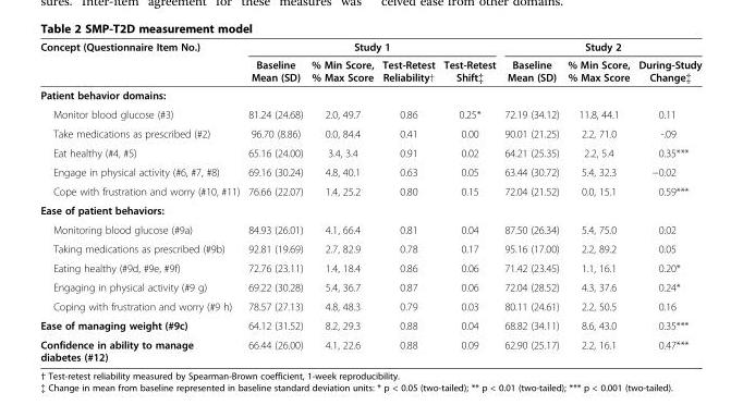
<table><thead><tr><td rowspan="2">Concept (Questionnaire Item No.)</td><td colspan="4">Study 1</td><td colspan="3">Study 2</td></tr><tr><td>Baseline Mean (SD)</td><td>% Min Score, % Max Score</td><td>Test-Retest Reliability†</td><td>Test-Retest Shift‡</td><td>Baseline Mean (SD)</td><td>% Min Score, % Max Score</td><td>During-Study Change‡</td></tr></thead><tbody><tr><td colspan="8">Patient behavior domains:</td></tr><tr><td>Monitor blood glucose (#3)</td><td>81.24 (24.68)</td><td>2.0, 49.7</td><td>0.86</td><td>0.25*</td><td>72.19 (34.12)</td><td>11.8, 44.1</td><td>0.11</td></tr><tr><td>Take medications as prescribed (#2)</td><td>96.70 (8.86)</td><td>0.0, 84.4</td><td>0.41</td><td>0.00</td><td>90.01 (21.25)</td><td>2.2, 71.0</td><td>-.09</td></tr><tr><td>Eat healthy (#4, #5)</td><td>65.16 (24.00)</td><td>3.4, 3.4</td><td>0.91</td><td>0.02</td><td>64.21 (25.35)</td><td>2.2, 5.4</td><td>0.35***</td></tr><tr><td>Engage in physical activity (#6, #7, #8)</td><td>69.16 (30.24)</td><td>4.8, 40.1</td><td>0.63</td><td>0.05</td><td>63.44 (30.72)</td><td>5.4, 32.3</td><td>−0.02</td></tr><tr><td>Cope with frustration and worry (#10, #11)</td><td>76.66 (22.07)</td><td>1.4, 25.2</td><td>0.80</td><td>0.15</td><td>72.04 (21.52)</td><td>0.0, 15.1</td><td>0.59***</td></tr><tr><td colspan="8">Ease of patient behaviors:</td></tr><tr><td>Monitoring blood glucose (#9a)</td><td>84.93 (26.01)</td><td>4.1, 66.4</td><td>0.81</td><td>0.04</td><td>87.50 (26.34)</td><td>5.4, 75.0</td><td>0.02</td></tr><tr><td>Taking medications as prescribed (#9b)</td><td>92.81 (19.69)</td><td>2.7, 82.9</td><td>0.78</td><td>0.17</td><td>95.16 (17.00)</td><td>2.2, 89.2</td><td>0.05</td></tr><tr><td>Eating healthy (#9d, #9e, #9f)</td><td>72.76 (23.11)</td><td>1.4, 18.4</td><td>0.86</td><td>0.06</td><td>71.42 (23.45)</td><td>1.1, 16.1</td><td>0.20*</td></tr><tr><td>Engaging in physical activity (#9 g)</td><td>69.22 (30.28)</td><td>5.4, 36.7</td><td>0.87</td><td>0.06</td><td>72.04 (28.52)</td><td>4.3, 37.6</td><td>0.24*</td></tr><tr><td>Coping with frustration and worry (#9 h)</td><td>78.57 (27.13)</td><td>4.8, 48.3</td><td>0.79</td><td>0.03</td><td>80.11 (24.61)</td><td>2.2, 50.5</td><td>0.16</td></tr><tr><td>Ease of managing weight (#9c)</td><td>64.12 (31.52)</td><td>8.2, 29.3</td><td>0.88</td><td>0.04</td><td>68.82 (34.11)</td><td>8.6, 43.0</td><td>0.35***</td></tr><tr><td>Confidence in ability to manage diabetes (#12)</td><td>66.44 (26.00)</td><td>4.1, 22.6</td><td>0.88</td><td>0.09</td><td>62.90 (25.17)</td><td>2.2, 16.1</td><td>0.47***</td></tr></tbody></table>